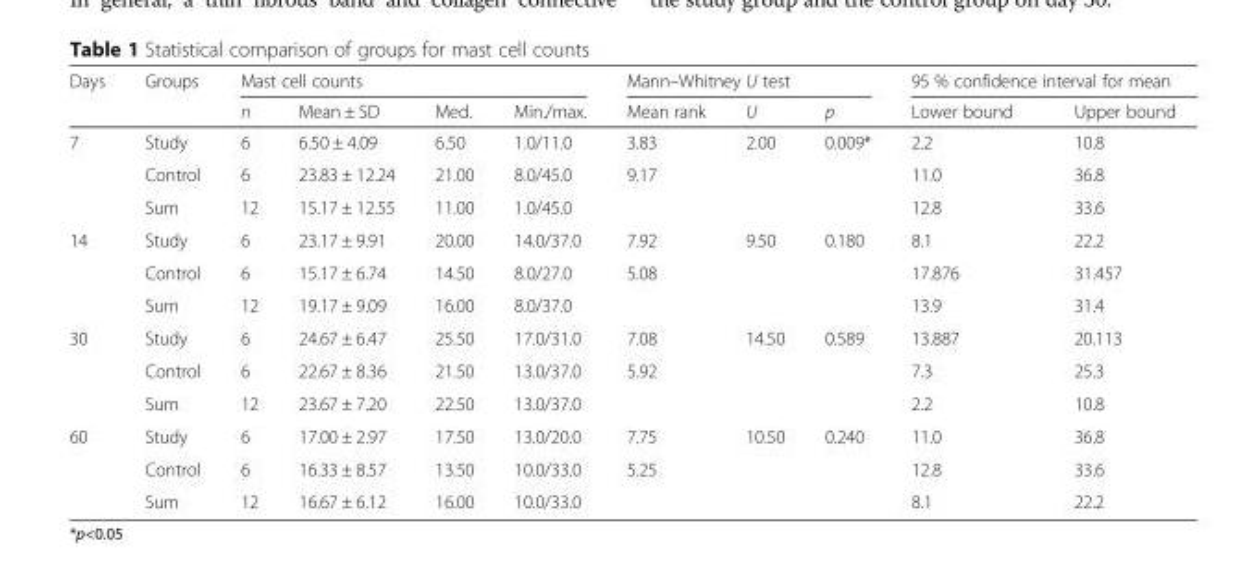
<table><thead><tr><td rowspan="2">Days</td><td rowspan="2">Groups</td><td colspan="4">Mast cell counts</td><td colspan="3">Mann–Whitney U test</td><td colspan="2">95 % confidence interval for mean</td></tr><tr><td>n</td><td>Mean ± SD</td><td>Med.</td><td>Min./max.</td><td>Mean rank</td><td>U</td><td>p</td><td>Lower bound</td><td>Upper bound</td></tr></thead><tbody><tr><td rowspan="3">7</td><td>Study</td><td>6</td><td>6.50 ± 4.09</td><td>6.50</td><td>1.0/11.0</td><td>3.83</td><td rowspan="3">2.00</td><td rowspan="3">0.009*</td><td>2.2</td><td>10.8</td></tr><tr><td>Control</td><td>6</td><td>23.83 ± 12.24</td><td>21.00</td><td>8.0/45.0</td><td>9.17</td><td>11.0</td><td>36.8</td></tr><tr><td>Sum</td><td>12</td><td>15.17 ± 12.55</td><td>11.00</td><td>1.0/45.0</td><td></td><td>12.8</td><td>33.6</td></tr><tr><td rowspan="3">14</td><td>Study</td><td>6</td><td>23.17 ± 9.91</td><td>20.00</td><td>14.0/37.0</td><td>7.92</td><td rowspan="3">9.50</td><td rowspan="3">0.180</td><td>8.1</td><td>22.2</td></tr><tr><td>Control</td><td>6</td><td>15.17 ± 6.74</td><td>14.50</td><td>8.0/27.0</td><td>5.08</td><td>17.876</td><td>31.457</td></tr><tr><td>Sum</td><td>12</td><td>19.17 ± 9.09</td><td>16.00</td><td>8.0/37.0</td><td></td><td>13.9</td><td>31.4</td></tr><tr><td rowspan="3">30</td><td>Study</td><td>6</td><td>24.67 ± 6.47</td><td>25.50</td><td>17.0/31.0</td><td>7.08</td><td rowspan="3">14.50</td><td rowspan="3">0.589</td><td>13.887</td><td>20.113</td></tr><tr><td>Control</td><td>6</td><td>22.67 ± 8.36</td><td>21.50</td><td>13.0/37.0</td><td>5.92</td><td>7.3</td><td>25.3</td></tr><tr><td>Sum</td><td>12</td><td>23.67 ± 7.20</td><td>22.50</td><td>13.0/37.0</td><td></td><td>2.2</td><td>10.8</td></tr><tr><td rowspan="3">60</td><td>Study</td><td>6</td><td>17.00 ± 2.97</td><td>17.50</td><td>13.0/20.0</td><td>7.75</td><td rowspan="3">10.50</td><td rowspan="3">0.240</td><td>11.0</td><td>36.8</td></tr><tr><td>Control</td><td>6</td><td>16.33 ± 8.57</td><td>13.50</td><td>10.0/33.0</td><td>5.25</td><td>12.8</td><td>33.6</td></tr><tr><td>Sum</td><td>12</td><td>16.67 ± 6.12</td><td>16.00</td><td>10.0/33.0</td><td></td><td>8.1</td><td>22.2</td></tr></tbody></table>